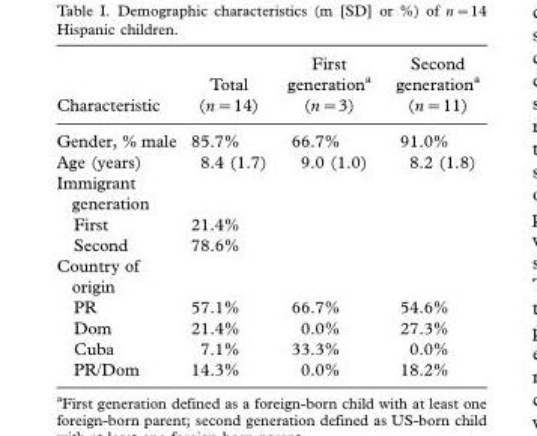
<table><thead><tr><td>Characteristic</td><td>Total (n=14)</td><td>First generation<sup>a</sup> (n=3)</td><td>Second generation<sup>a</sup> (n=11)</td></tr></thead><tbody><tr><td>Gender, % male</td><td>85.7%</td><td>66.7%</td><td>91.0%</td></tr><tr><td>Age (years)</td><td>8.4 (1.7)</td><td>9.0 (1.0)</td><td>8.2 (1.8)</td></tr><tr><td colspan="4">Immigrant generation</td></tr><tr><td>First</td><td>21.4%</td><td></td><td></td></tr><tr><td>Second</td><td>78.6%</td><td></td><td></td></tr><tr><td colspan="4">Country of origin</td></tr><tr><td>PR</td><td>57.1%</td><td>66.7%</td><td>54.6%</td></tr><tr><td>Dom</td><td>21.4%</td><td>0.0%</td><td>27.3%</td></tr><tr><td>Cuba</td><td>7.1%</td><td>33.3%</td><td>0.0%</td></tr><tr><td>PR/Dom</td><td>14.3%</td><td>0.0%</td><td>18.2%</td></tr></tbody></table>